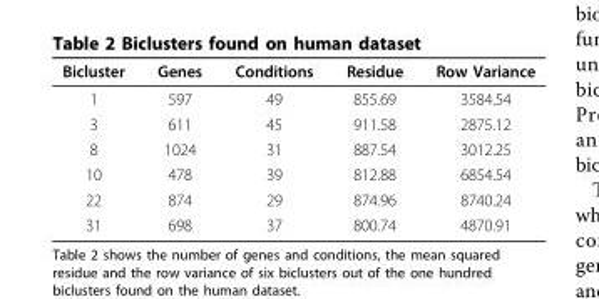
<table><thead><tr><td>Bicluster</td><td>Genes</td><td>Conditions</td><td>Residue</td><td>Row Variance</td></tr></thead><tbody><tr><td>1</td><td>597</td><td>49</td><td>855.69</td><td>3584.54</td></tr><tr><td>3</td><td>611</td><td>45</td><td>911.58</td><td>2875.12</td></tr><tr><td>8</td><td>1024</td><td>31</td><td>887.54</td><td>3012.25</td></tr><tr><td>10</td><td>478</td><td>39</td><td>812.88</td><td>6854.54</td></tr><tr><td>22</td><td>874</td><td>29</td><td>874.96</td><td>8740.24</td></tr><tr><td>31</td><td>698</td><td>37</td><td>800.74</td><td>4870.91</td></tr></tbody></table>